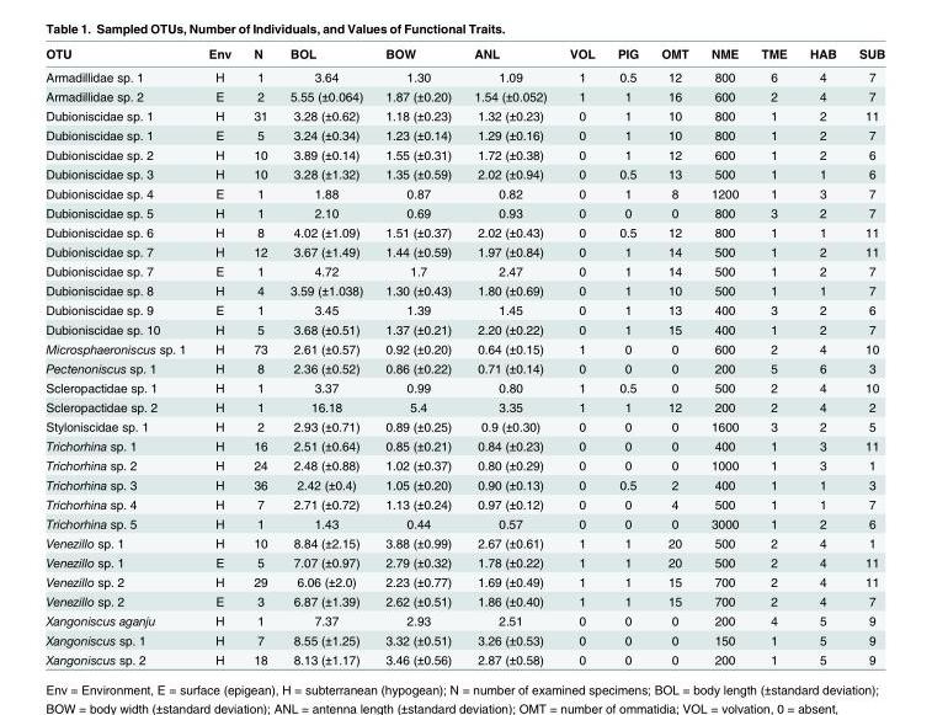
<table><thead><tr><td>OTU</td><td>Env</td><td>N</td><td>BOL</td><td>BOW</td><td>ANL</td><td>VOL</td><td>PIG</td><td>OMT</td><td>NME</td><td>TME</td><td>HAB</td><td>SUB</td></tr></thead><tbody><tr><td>Armadillidae sp. 1</td><td>H</td><td>1</td><td>3.64</td><td>1.30</td><td>1.09</td><td>1</td><td>0.5</td><td>12</td><td>800</td><td>6</td><td>4</td><td>7</td></tr><tr><td>Armadillidae sp. 2</td><td>E</td><td>2</td><td>5.55 (±0.064)</td><td>1.87 (±0.20)</td><td>1.54 (±0.052)</td><td>1</td><td>1</td><td>16</td><td>600</td><td>2</td><td>4</td><td>7</td></tr><tr><td>Dubioniscidae sp. 1</td><td>H</td><td>31</td><td>3.28 (±0.62)</td><td>1.18 (±0.23)</td><td>1.32 (±0.23)</td><td>0</td><td>1</td><td>10</td><td>800</td><td>1</td><td>2</td><td>11</td></tr><tr><td>Dubioniscidae sp. 1</td><td>E</td><td>5</td><td>3.24 (±0.34)</td><td>1.23 (±0.14)</td><td>1.29 (±0.16)</td><td>0</td><td>1</td><td>10</td><td>800</td><td>1</td><td>2</td><td>7</td></tr><tr><td>Dubioniscidae sp. 2</td><td>H</td><td>10</td><td>3.89 (±0.14)</td><td>1.55 (±0.31)</td><td>1.72 (±0.38)</td><td>0</td><td>1</td><td>12</td><td>600</td><td>1</td><td>2</td><td>6</td></tr><tr><td>Dubioniscidae sp. 3</td><td>H</td><td>10</td><td>3.28 (±1.32)</td><td>1.35 (±0.59)</td><td>2.02 (±0.94)</td><td>0</td><td>0.5</td><td>13</td><td>500</td><td>1</td><td>1</td><td>6</td></tr><tr><td>Dubioniscidae sp. 4</td><td>E</td><td>1</td><td>1.88</td><td>0.87</td><td>0.82</td><td>0</td><td>1</td><td>8</td><td>1200</td><td>1</td><td>3</td><td>7</td></tr><tr><td>Dubioniscidae sp. 5</td><td>H</td><td>1</td><td>2.10</td><td>0.69</td><td>0.93</td><td>0</td><td>0</td><td>0</td><td>800</td><td>3</td><td>2</td><td>7</td></tr><tr><td>Dubioniscidae sp. 6</td><td>H</td><td>8</td><td>4.02 (±1.09)</td><td>1.51 (±0.37)</td><td>2.02 (±0.43)</td><td>0</td><td>0.5</td><td>12</td><td>800</td><td>1</td><td>1</td><td>11</td></tr><tr><td>Dubioniscidae sp. 7</td><td>H</td><td>12</td><td>3.67 (±1.49)</td><td>1.44 (±0.59)</td><td>1.97 (±0.84)</td><td>0</td><td>1</td><td>14</td><td>500</td><td>1</td><td>2</td><td>11</td></tr><tr><td>Dubioniscidae sp. 7</td><td>E</td><td>1</td><td>4.72</td><td>1.7</td><td>2.47</td><td>0</td><td>1</td><td>14</td><td>500</td><td>1</td><td>2</td><td>7</td></tr><tr><td>Dubioniscidae sp. 8</td><td>H</td><td>4</td><td>3.59 (±1.038)</td><td>1.30 (±0.43)</td><td>1.80 (±0.69)</td><td>0</td><td>1</td><td>10</td><td>500</td><td>1</td><td>1</td><td>7</td></tr><tr><td>Dubioniscidae sp. 9</td><td>E</td><td>1</td><td>3.45</td><td>1.39</td><td>1.45</td><td>0</td><td>1</td><td>13</td><td>400</td><td>3</td><td>2</td><td>6</td></tr><tr><td>Dubioniscidae sp. 10</td><td>H</td><td>5</td><td>3.68 (±0.51)</td><td>1.37 (±0.21)</td><td>2.20 (±0.22)</td><td>0</td><td>1</td><td>15</td><td>400</td><td>1</td><td>2</td><td>7</td></tr><tr><td>Microsphaeroniscus sp. 1</td><td>H</td><td>73</td><td>2.61 (±0.57)</td><td>0.92 (±0.20)</td><td>0.64 (±0.15)</td><td>1</td><td>0</td><td>0</td><td>600</td><td>2</td><td>4</td><td>10</td></tr><tr><td>Pectenoniscus sp. 1</td><td>H</td><td>8</td><td>2.36 (±0.52)</td><td>0.86 (±0.22)</td><td>0.71 (±0.14)</td><td>0</td><td>0</td><td>0</td><td>200</td><td>5</td><td>6</td><td>3</td></tr><tr><td>Scleropactidae sp. 1</td><td>H</td><td>1</td><td>3.37</td><td>0.99</td><td>0.80</td><td>1</td><td>0.5</td><td>0</td><td>500</td><td>2</td><td>4</td><td>10</td></tr><tr><td>Scleropactidae sp. 2</td><td>H</td><td>1</td><td>16.18</td><td>5.4</td><td>3.35</td><td>1</td><td>1</td><td>12</td><td>200</td><td>2</td><td>4</td><td>2</td></tr><tr><td>Styloniscidae sp. 1</td><td>H</td><td>2</td><td>2.93 (±0.71)</td><td>0.89 (±0.25)</td><td>0.9 (±0.30)</td><td>0</td><td>0</td><td>0</td><td>1600</td><td>3</td><td>2</td><td>5</td></tr><tr><td>Trichorhina sp. 1</td><td>H</td><td>16</td><td>2.51 (±0.64)</td><td>0.85 (±0.21)</td><td>0.84 (±0.23)</td><td>0</td><td>0</td><td>0</td><td>400</td><td>1</td><td>3</td><td>11</td></tr><tr><td>Trichorhina sp. 2</td><td>H</td><td>24</td><td>2.48 (±0.88)</td><td>1.02 (±0.37)</td><td>0.80 (±0.29)</td><td>0</td><td>0</td><td>0</td><td>1000</td><td>1</td><td>3</td><td>1</td></tr><tr><td>Trichorhina sp. 3</td><td>H</td><td>36</td><td>2.42 (±0.4)</td><td>1.05 (±0.20)</td><td>0.90 (±0.13)</td><td>0</td><td>0.5</td><td>2</td><td>400</td><td>1</td><td>1</td><td>3</td></tr><tr><td>Trichorhina sp. 4</td><td>H</td><td>7</td><td>2.71 (±0.72)</td><td>1.13 (±0.24)</td><td>0.97 (±0.12)</td><td>0</td><td>0</td><td>4</td><td>500</td><td>1</td><td>1</td><td>7</td></tr><tr><td>Trichorhina sp. 5</td><td>H</td><td>1</td><td>1.43</td><td>0.44</td><td>0.57</td><td>0</td><td>0</td><td>0</td><td>3000</td><td>1</td><td>2</td><td>6</td></tr><tr><td>Venezillo sp. 1</td><td>H</td><td>10</td><td>8.84 (±2.15)</td><td>3.88 (±0.99)</td><td>2.67 (±0.61)</td><td>1</td><td>1</td><td>20</td><td>500</td><td>2</td><td>4</td><td>1</td></tr><tr><td>Venezillo sp. 1</td><td>E</td><td>5</td><td>7.07 (±0.97)</td><td>2.79 (±0.32)</td><td>1.78 (±0.22)</td><td>1</td><td>1</td><td>20</td><td>500</td><td>2</td><td>4</td><td>11</td></tr><tr><td>Venezillo sp. 2</td><td>H</td><td>29</td><td>6.06 (±2.0)</td><td>2.23 (±0.77)</td><td>1.69 (±0.49)</td><td>1</td><td>1</td><td>15</td><td>700</td><td>2</td><td>4</td><td>11</td></tr><tr><td>Venezillo sp. 2</td><td>E</td><td>3</td><td>6.87 (±1.39)</td><td>2.62 (±0.51)</td><td>1.86 (±0.40)</td><td>1</td><td>1</td><td>15</td><td>700</td><td>2</td><td>4</td><td>7</td></tr><tr><td>Xangoniscus aganju</td><td>H</td><td>1</td><td>7.37</td><td>2.93</td><td>2.51</td><td>0</td><td>0</td><td>0</td><td>200</td><td>4</td><td>5</td><td>9</td></tr><tr><td>Xangoniscus sp. 1</td><td>H</td><td>7</td><td>8.55 (±1.25)</td><td>3.32 (±0.51)</td><td>3.26 (±0.53)</td><td>0</td><td>0</td><td>0</td><td>150</td><td>1</td><td>5</td><td>9</td></tr><tr><td>Xangoniscus sp. 2</td><td>H</td><td>18</td><td>8.13 (±1.17)</td><td>3.46 (±0.56)</td><td>2.87 (±0.58)</td><td>0</td><td>0</td><td>0</td><td>200</td><td>1</td><td>5</td><td>9</td></tr></tbody></table>